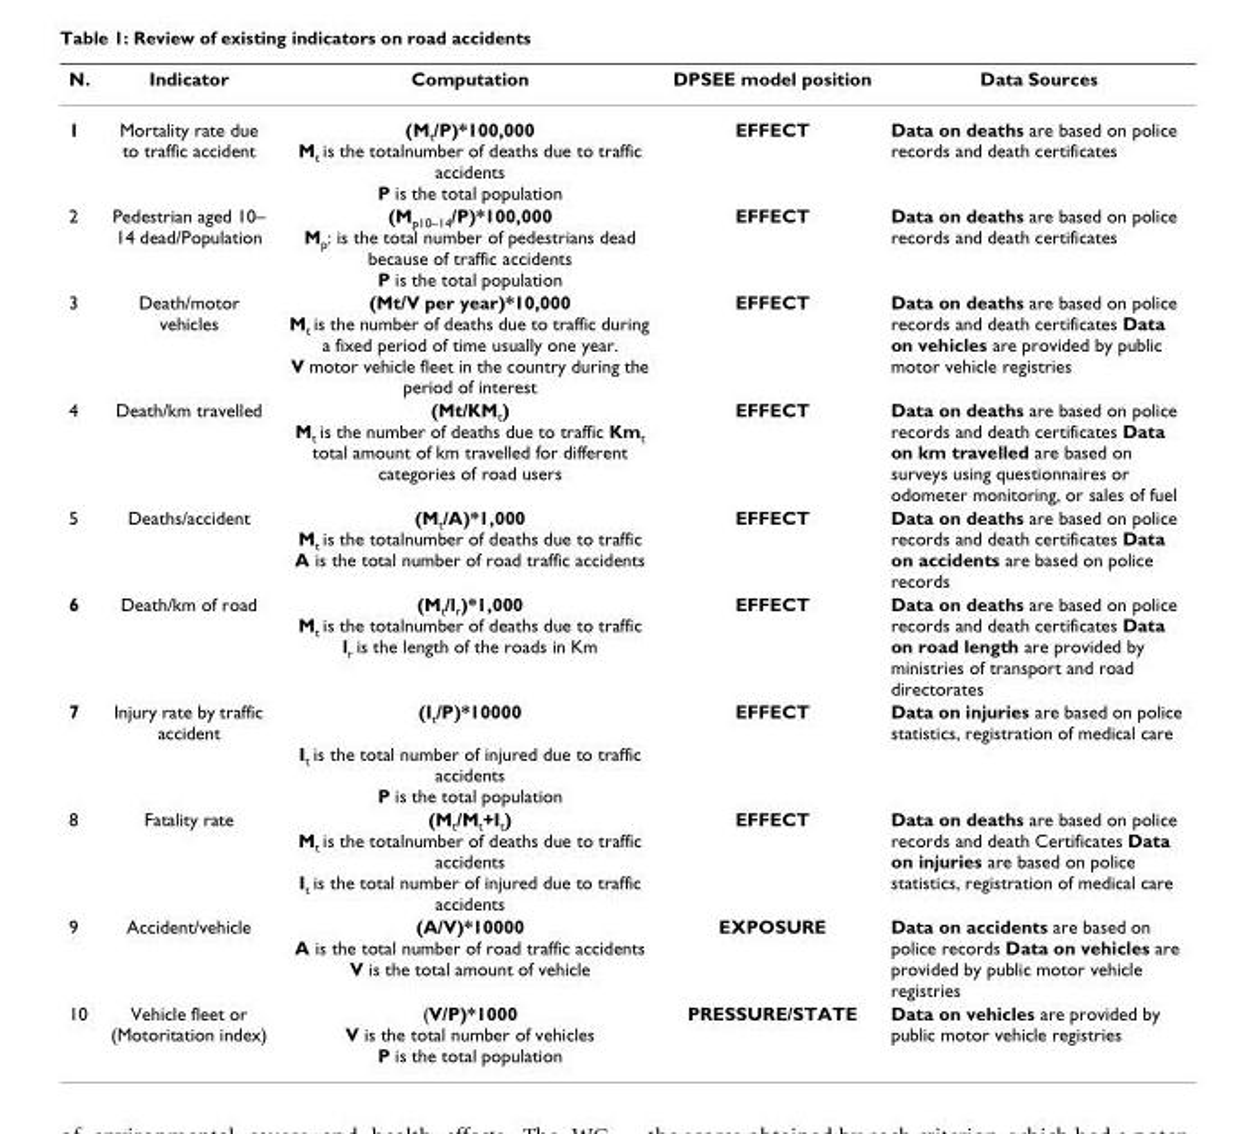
<table><thead><tr><td>N.</td><td>Indicator</td><td>Computation</td><td>DPSEE model position</td><td>Data Sources</td></tr></thead><tbody><tr><td>1</td><td>Mortality rate due to traffic accident</td><td>(Mt/P)*100,000 Mt is the totalnumber of deaths due to traffic accidents P is the total population</td><td>EFFECT</td><td>Data on deaths are based on police records and death certificates</td></tr><tr><td>2</td><td>Pedestrian aged 10– 14 dead/Population</td><td>(Mp10–14/P)*100,000 Mp: is the total number of pedestrians dead because of traffic accidents P is the total population</td><td>EFFECT</td><td>Data on deaths are based on police records and death certificates</td></tr><tr><td>3</td><td>Death/motor vehicles</td><td>(Mt/V per year)*10,000 Mt is the number of deaths due to traffic during a fixed period of time usually one year. V motor vehicle fleet in the country during the period of interest</td><td>EFFECT</td><td>Data on deaths are based on police records and death certificates Data on vehicles are provided by public motor vehicle registries</td></tr><tr><td>4</td><td>Death/km travelled</td><td>(Mt/KMt) Mt is the number of deaths due to traffic Kmt total amount of km travelled for different categories of road users</td><td>EFFECT</td><td>Data on deaths are based on police records and death certificates Data on km travelled are based on surveys using questionnaires or odometer monitoring, or sales of fuel</td></tr><tr><td>5</td><td>Deaths/accident</td><td>(Mt/A)*1,000 Mt is the totalnumber of deaths due to traffic A is the total number of road traffic accidents</td><td>EFFECT</td><td>Data on deaths are based on police records and death certificates Data on accidents are based on police records</td></tr><tr><td>6</td><td>Death/km of road</td><td>(Mt/lr)*1,000 Mt is the totalnumber of deaths due to traffic lr is the length of the roads in Km</td><td>EFFECT</td><td>Data on deaths are based on police records and death certificates Data on road length are provided by ministries of transport and road directorates</td></tr><tr><td>7</td><td>Injury rate by traffic accident</td><td>(It/P)*10000 It is the total number of injured due to traffic accidents P is the total population</td><td>EFFECT</td><td>Data on injuries are based on police statistics, registration of medical care</td></tr><tr><td>8</td><td>Fatality rate</td><td>(Mt/Mt+It) Mt is the totalnumber of deaths due to traffic accidents It is the total number of injured due to traffic accidents</td><td>EFFECT</td><td>Data on deaths are based on police records and death Certificates Data on injuries are based on police statistics, registration of medical care</td></tr><tr><td>9</td><td>Accident/vehicle</td><td>(A/V)*10000 A is the total number of road traffic accidents V is the total amount of vehicle</td><td>EXPOSURE</td><td>Data on accidents are based on police records Data on vehicles are provided by public motor vehicle registries</td></tr><tr><td>10</td><td>Vehicle fleet or (Motoritation index)</td><td>(V/P)*1000 V is the total number of vehicles P is the total population</td><td>PRESSURE/STATE</td><td>Data on vehicles are provided by public motor vehicle registries</td></tr></tbody></table>